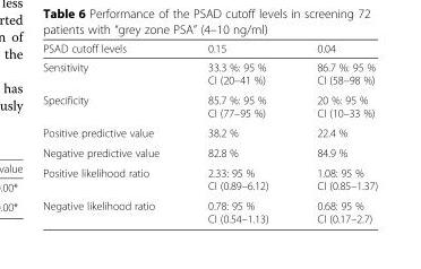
<table><thead><tr><td>PSAD cutoff levels</td><td>0.15</td><td>0.04</td></tr></thead><tbody><tr><td>Sensitivity</td><td>33.3 %: 95 % CI (20–41 %)</td><td>86.7 %: 95 % CI (58–98 %)</td></tr><tr><td>Specificity</td><td>85.7 %: 95 % CI (77–95 %)</td><td>20 %: 95 % CI (10–33 %)</td></tr><tr><td>Positive predictive value</td><td>38.2 %</td><td>22.4 %</td></tr><tr><td>Negative predictive value</td><td>82.8 %</td><td>84.9 %</td></tr><tr><td>Positive likelihood ratio</td><td>2.33: 95 % CI (0.89–6.12)</td><td>1.08: 95 % CI (0.85–1.37)</td></tr><tr><td>Negative likelihood ratio</td><td>0.78: 95 % CI (0.54–1.13)</td><td>0.68: 95 % CI (0.17–2.7)</td></tr></tbody></table>